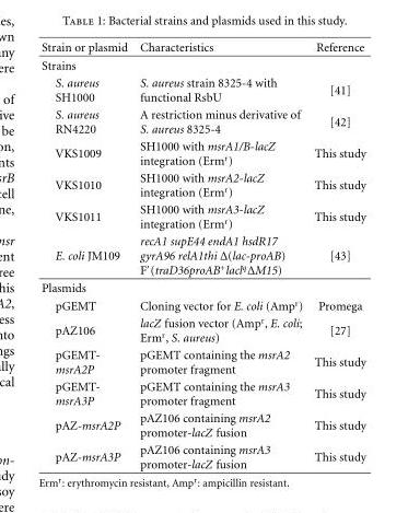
<table><thead><tr><td>Strain or plasmid</td><td>Characteristics</td><td>Reference</td></tr></thead><tbody><tr><td colspan="3">Strains</td></tr><tr><td>S. aureus SH1000</td><td>S. aureus strain 8325-4 with functional RsbU</td><td>[41]</td></tr><tr><td>S. aureus RN4220</td><td>A restriction minus derivative of S. aureus 8325-4</td><td>[42]</td></tr><tr><td>VKS1009</td><td>SH1000 with msrA1/B-lacZ integration (Erm<sup>r</sup>)</td><td>This study</td></tr><tr><td>VKS1010</td><td>SH1000 with msrA2-lacZ integration (Erm<sup>r</sup>)</td><td>This study</td></tr><tr><td>VKS1011</td><td>SH1000 with msrA3-lacZ integration (Erm<sup>r</sup>)</td><td>This study</td></tr><tr><td>E. coli JM109</td><td>recA1 supE44 endA1 hsdR17 gyrA96 relA1thi Δ(lac-proAB) F′(traD36proAB<sup>+</sup>lacl<sup>q</sup>ΔM15)</td><td>[43]</td></tr><tr><td colspan="3">Plasmids</td></tr><tr><td>pGEMT</td><td>Cloning vector for E. coli (Amp<sup>r</sup>)</td><td>Promega</td></tr><tr><td>pAZ106</td><td>lacZ fusion vector (Amp<sup>r</sup>, E. coli; Erm<sup>r</sup>, S. aureus)</td><td>[27]</td></tr><tr><td>pGEMT- msrA2P</td><td>pGEMT containing the msrA2 promoter fragment</td><td>This study</td></tr><tr><td>pGEMT- msrA3P</td><td>pGEMT containing the msrA3 promoter fragment</td><td>This study</td></tr><tr><td>pAZ-msrA2P</td><td>pAZ106 containing msrA2 promoter-lacZ fusion</td><td>This study</td></tr><tr><td>pAZ-msrA3P</td><td>pAZ106 containing msrA3 promoter-lacZ fusion</td><td>This study</td></tr></tbody></table>